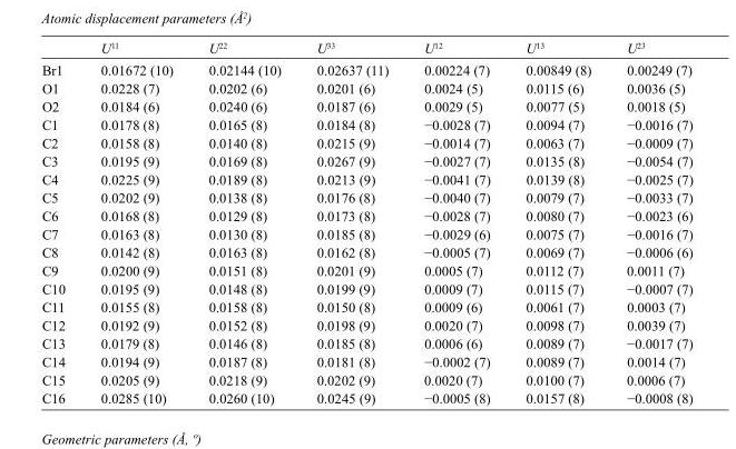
<table><thead><tr><td></td><td>U<sup>11</sup></td><td>U<sup>22</sup></td><td>U<sup>33</sup></td><td>U<sup>12</sup></td><td>U<sup>13</sup></td><td>U<sup>23</sup></td></tr></thead><tbody><tr><td>Br1</td><td>0.01672 (10)</td><td>0.02144 (10)</td><td>0.02637 (11)</td><td>0.00224 (7)</td><td>0.00849 (8)</td><td>0.00249 (7)</td></tr><tr><td>O1</td><td>0.0228 (7)</td><td>0.0202 (6)</td><td>0.0201 (6)</td><td>0.0024 (5)</td><td>0.0115 (6)</td><td>0.0036 (5)</td></tr><tr><td>O2</td><td>0.0184 (6)</td><td>0.0240 (6)</td><td>0.0187 (6)</td><td>0.0029 (5)</td><td>0.0077 (5)</td><td>0.0018 (5)</td></tr><tr><td>C1</td><td>0.0178 (8)</td><td>0.0165 (8)</td><td>0.0184 (8)</td><td>−0.0028 (7)</td><td>0.0094 (7)</td><td>−0.0016 (7)</td></tr><tr><td>C2</td><td>0.0158 (8)</td><td>0.0140 (8)</td><td>0.0215 (9)</td><td>−0.0014 (7)</td><td>0.0063 (7)</td><td>−0.0009 (7)</td></tr><tr><td>C3</td><td>0.0195 (9)</td><td>0.0169 (8)</td><td>0.0267 (9)</td><td>−0.0027 (7)</td><td>0.0135 (8)</td><td>−0.0054 (7)</td></tr><tr><td>C4</td><td>0.0225 (9)</td><td>0.0189 (8)</td><td>0.0213 (9)</td><td>−0.0041 (7)</td><td>0.0139 (8)</td><td>−0.0025 (7)</td></tr><tr><td>C5</td><td>0.0202 (9)</td><td>0.0138 (8)</td><td>0.0176 (8)</td><td>−0.0040 (7)</td><td>0.0079 (7)</td><td>−0.0033 (7)</td></tr><tr><td>C6</td><td>0.0168 (8)</td><td>0.0129 (8)</td><td>0.0173 (8)</td><td>−0.0028 (7)</td><td>0.0080 (7)</td><td>−0.0023 (6)</td></tr><tr><td>C7</td><td>0.0163 (8)</td><td>0.0130 (8)</td><td>0.0185 (8)</td><td>−0.0029 (6)</td><td>0.0075 (7)</td><td>−0.0016 (7)</td></tr><tr><td>C8</td><td>0.0142 (8)</td><td>0.0163 (8)</td><td>0.0162 (8)</td><td>−0.0005 (7)</td><td>0.0069 (7)</td><td>−0.0006 (6)</td></tr><tr><td>C9</td><td>0.0200 (9)</td><td>0.0151 (8)</td><td>0.0201 (9)</td><td>0.0005 (7)</td><td>0.0112 (7)</td><td>0.0011 (7)</td></tr><tr><td>C10</td><td>0.0195 (9)</td><td>0.0148 (8)</td><td>0.0199 (9)</td><td>0.0009 (7)</td><td>0.0115 (7)</td><td>−0.0007 (7)</td></tr><tr><td>C11</td><td>0.0155 (8)</td><td>0.0158 (8)</td><td>0.0150 (8)</td><td>0.0009 (6)</td><td>0.0061 (7)</td><td>0.0003 (7)</td></tr><tr><td>C12</td><td>0.0192 (9)</td><td>0.0152 (8)</td><td>0.0198 (9)</td><td>0.0020 (7)</td><td>0.0098 (7)</td><td>0.0039 (7)</td></tr><tr><td>C13</td><td>0.0179 (8)</td><td>0.0146 (8)</td><td>0.0185 (8)</td><td>0.0006 (6)</td><td>0.0089 (7)</td><td>−0.0017 (7)</td></tr><tr><td>C14</td><td>0.0194 (9)</td><td>0.0187 (8)</td><td>0.0181 (8)</td><td>−0.0002 (7)</td><td>0.0089 (7)</td><td>0.0014 (7)</td></tr><tr><td>C15</td><td>0.0205 (9)</td><td>0.0218 (9)</td><td>0.0202 (9)</td><td>0.0020 (7)</td><td>0.0100 (7)</td><td>0.0006 (7)</td></tr><tr><td>C16</td><td>0.0285 (10)</td><td>0.0260 (10)</td><td>0.0245 (9)</td><td>−0.0005 (8)</td><td>0.0157 (8)</td><td>−0.0008 (8)</td></tr></tbody></table>